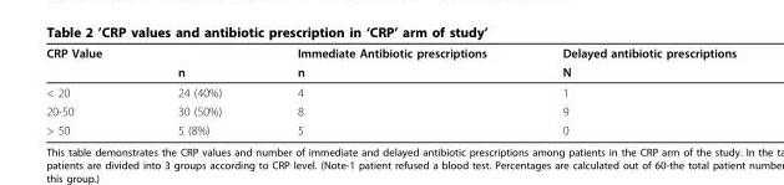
<table><thead><tr><td rowspan="2">CRP Value</td><td rowspan="2">n</td><td rowspan="2">Immediate Antibiotic prescriptions n</td><td rowspan="2">Delayed antibiotic prescriptions N</td></tr><tr></tr></thead><tbody><tr><td>&lt; 20</td><td>24 (40%)</td><td>4</td><td>1</td></tr><tr><td>20-50</td><td>30 (50%)</td><td>8</td><td>9</td></tr><tr><td>&gt; 50</td><td>5 (8%)</td><td>5</td><td>0</td></tr></tbody></table>